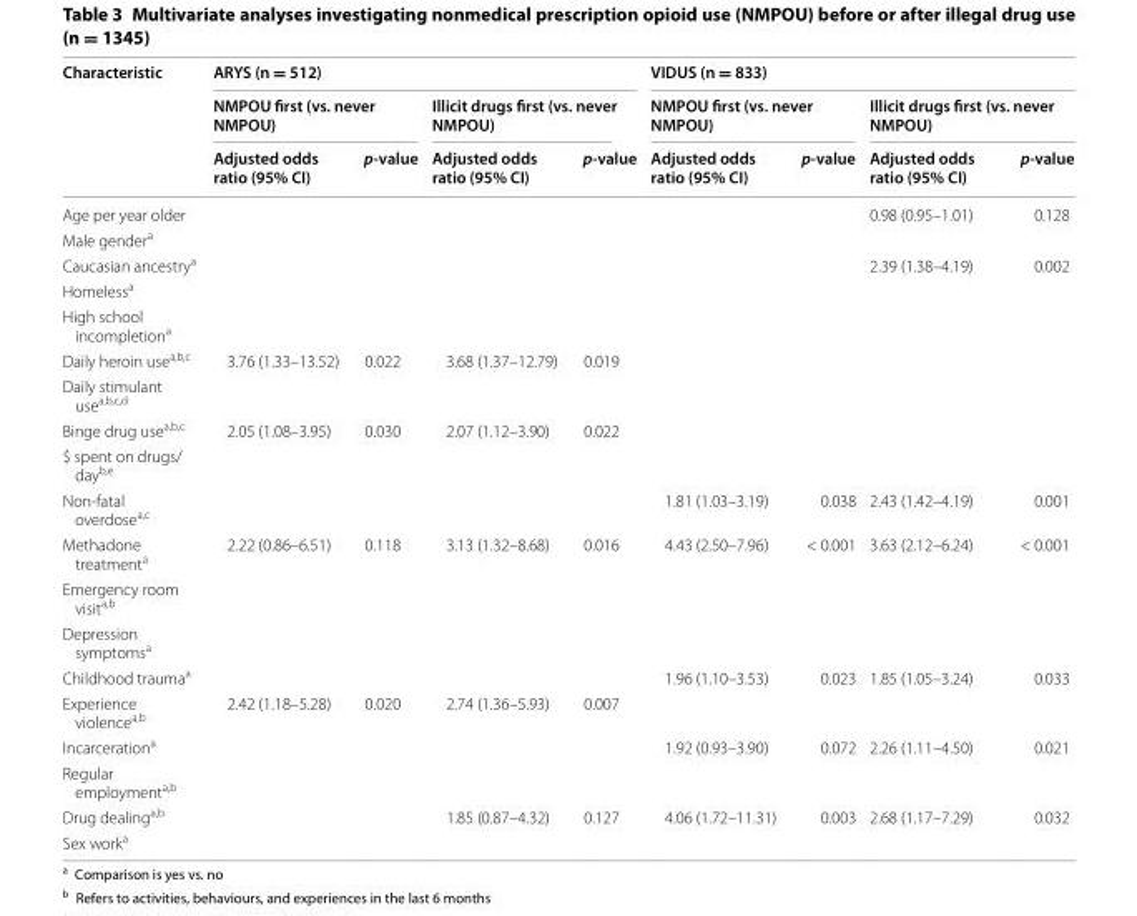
<table><thead><tr><td rowspan="3">Characteristic</td><td colspan="4">ARYS (n = 512)</td><td colspan="4">VIDUS (n = 833)</td></tr><tr><td colspan="2">NMPOU first (vs. never NMPOU)</td><td colspan="2">Illicit drugs first (vs. never NMPOU)</td><td colspan="2">NMPOU first (vs. never NMPOU)</td><td colspan="2">Illicit drugs first (vs. never NMPOU)</td></tr><tr><td>Adjusted odds ratio (95% CI)</td><td>p-value</td><td>Adjusted odds ratio (95% CI)</td><td>p-value</td><td>Adjusted odds ratio (95% CI)</td><td>p-value</td><td>Adjusted odds ratio (95% CI)</td><td>p-value</td></tr></thead><tbody><tr><td>Age per year older</td><td></td><td></td><td></td><td></td><td></td><td></td><td>0.98 (0.95–1.01)</td><td>0.128</td></tr><tr><td colspan="9">Male gender<sup>a</sup></td></tr><tr><td>Caucasian ancestry<sup>a</sup></td><td></td><td></td><td></td><td></td><td></td><td></td><td>2.39 (1.38–4.19)</td><td>0.002</td></tr><tr><td colspan="9">Homeless<sup>a</sup></td></tr><tr><td colspan="9">High school incompletion<sup>a</sup></td></tr><tr><td>Daily heroin use<sup>a,b,c</sup></td><td>3.76 (1.33–13.52)</td><td>0.022</td><td>3.68 (1.37–12.79)</td><td>0.019</td><td></td><td></td><td></td><td></td></tr><tr><td colspan="9">Daily stimulant use<sup>a,b,c,d</sup></td></tr><tr><td>Binge drug use<sup>a,b,c</sup></td><td>2.05 (1.08–3.95)</td><td>0.030</td><td>2.07 (1.12–3.90)</td><td>0.022</td><td></td><td></td><td></td><td></td></tr><tr><td colspan="9">$ spent on drugs/ day<sup>b,e</sup></td></tr><tr><td>Non-fatal overdose<sup>a,c</sup></td><td></td><td></td><td></td><td></td><td>1.81 (1.03–3.19)</td><td>0.038</td><td>2.43 (1.42–4.19)</td><td>0.001</td></tr><tr><td>Methadone treatment<sup>a</sup></td><td>2.22 (0.86–6.51)</td><td>0.118</td><td>3.13 (1.32–8.68)</td><td>0.016</td><td>4.43 (2.50–7.96)</td><td>&lt; 0.001</td><td>3.63 (2.12–6.24)</td><td>&lt; 0.001</td></tr><tr><td colspan="9">Emergency room visit<sup>a,b</sup></td></tr><tr><td colspan="9">Depression symptoms<sup>a</sup></td></tr><tr><td>Childhood trauma<sup>a</sup></td><td></td><td></td><td></td><td></td><td>1.96 (1.10–3.53)</td><td>0.023</td><td>1.85 (1.05–3.24)</td><td>0.033</td></tr><tr><td>Experience violence<sup>a,b</sup></td><td>2.42 (1.18–5.28)</td><td>0.020</td><td>2.74 (1.36–5.93)</td><td>0.007</td><td></td><td></td><td></td><td></td></tr><tr><td>Incarceration<sup>a</sup></td><td></td><td></td><td></td><td></td><td>1.92 (0.93–3.90)</td><td>0.072</td><td>2.26 (1.11–4.50)</td><td>0.021</td></tr><tr><td colspan="9">Regular employment<sup>a,b</sup></td></tr><tr><td>Drug dealing<sup>a,b</sup></td><td></td><td></td><td>1.85 (0.87–4.32)</td><td>0.127</td><td>4.06 (1.72–11.31)</td><td>0.003</td><td>2.68 (1.17–7.29)</td><td>0.032</td></tr><tr><td>Sex work<sup>a</sup></td><td></td><td></td><td></td><td></td><td></td><td></td><td></td><td></td></tr></tbody></table>